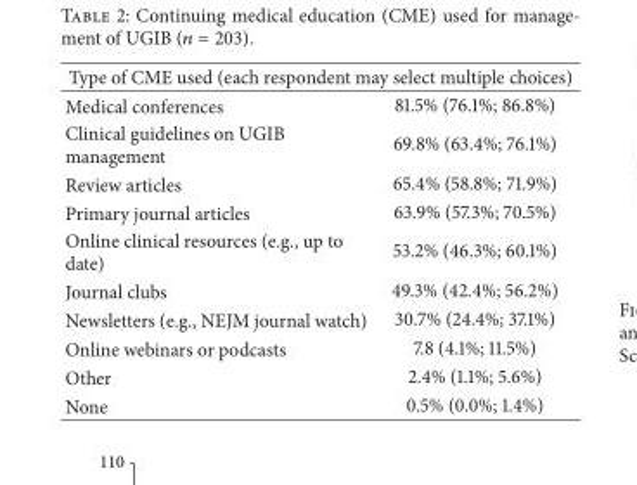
<table><thead><tr><td colspan="2">Type of CME used (each respondent may select multiple choices)</td></tr><tr><td>Medical conferences</td><td>81.5% (76.1%; 86.8%)</td></tr></thead><tbody><tr><td>Clinical guidelines on UGIB management</td><td>69.8% (63.4%; 76.1%)</td></tr><tr><td>Review articles</td><td>65.4% (58.8%; 71.9%)</td></tr><tr><td>Primary journal articles</td><td>63.9% (57.3%; 70.5%)</td></tr><tr><td>Online clinical resources (e.g., up to date)</td><td>53.2% (46.3%; 60.1%)</td></tr><tr><td>Journal clubs</td><td>49.3% (42.4%; 56.2%)</td></tr><tr><td>Newsletters (e.g., NEJM journal watch)</td><td>30.7% (24.4%; 37.1%)</td></tr><tr><td>Online webinars or podcasts</td><td>7.8 (4.1%; 11.5%)</td></tr><tr><td>Other</td><td>2.4% (1.1%; 5.6%)</td></tr><tr><td>None</td><td>0.5% (0.0%; 1.4%)</td></tr></tbody></table>